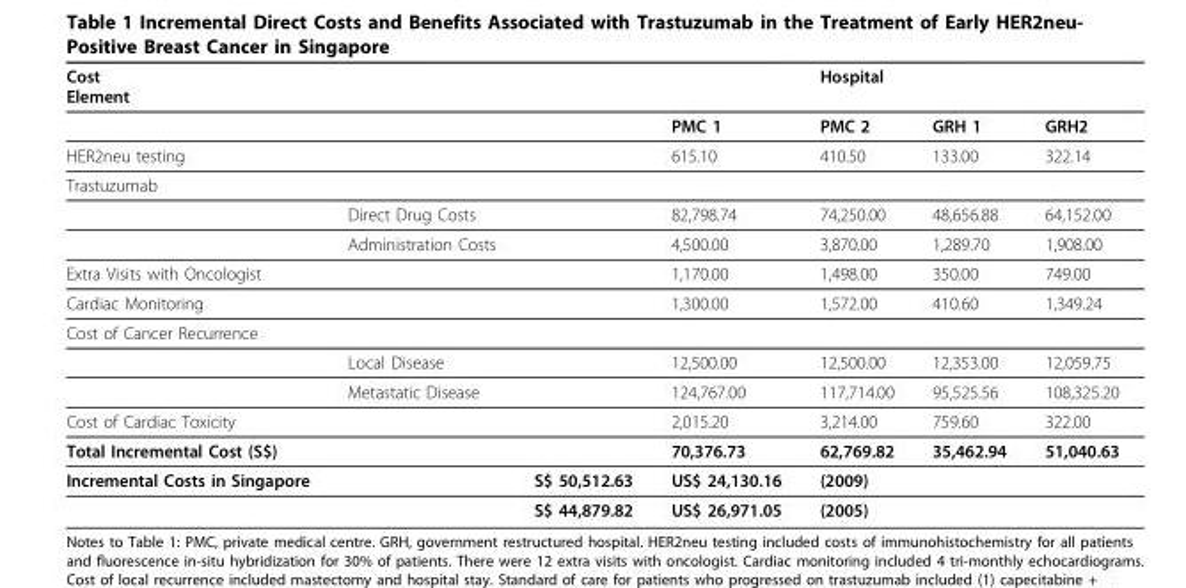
<table><thead><tr><td>Cost Element</td><td></td><td></td><td></td><td>Hospital</td><td></td><td></td></tr></thead><tbody><tr><td></td><td></td><td></td><td>PMC 1</td><td>PMC 2</td><td>GRH 1</td><td>GRH2</td></tr><tr><td>HER2neu testing</td><td></td><td></td><td>615.10</td><td>410.50</td><td>133.00</td><td>322.14</td></tr><tr><td colspan="7">Trastuzumab</td></tr><tr><td></td><td>Direct Drug Costs</td><td></td><td>82,798.74</td><td>74,250.00</td><td>48,656.88</td><td>64,152.00</td></tr><tr><td></td><td>Administration Costs</td><td></td><td>4,500.00</td><td>3,870.00</td><td>1,289.70</td><td>1,908.00</td></tr><tr><td>Extra Visits with Oncologist</td><td></td><td></td><td>1,170.00</td><td>1,498.00</td><td>350.00</td><td>749.00</td></tr><tr><td>Cardiac Monitoring</td><td></td><td></td><td>1,300.00</td><td>1,572.00</td><td>410.60</td><td>1,349.24</td></tr><tr><td colspan="7">Cost of Cancer Recurrence</td></tr><tr><td></td><td>Local Disease</td><td></td><td>12,500.00</td><td>12,500.00</td><td>12,353.00</td><td>12,059.75</td></tr><tr><td></td><td>Metastatic Disease</td><td></td><td>124,767.00</td><td>117,714.00</td><td>95,525.56</td><td>108,325.20</td></tr><tr><td>Cost of Cardiac Toxicity</td><td></td><td></td><td>2,015.20</td><td>3,214.00</td><td>759.60</td><td>322.00</td></tr><tr><td>Total Incremental Cost (S$)</td><td></td><td></td><td>70,376.73</td><td>62,769.82</td><td>35,462.94</td><td>51,040.63</td></tr><tr><td rowspan="2">Incremental Costs in Singapore</td><td></td><td>S$ 50,512.63</td><td>US$ 24,130.16</td><td>(2009)</td><td></td><td></td></tr><tr><td></td><td>S$ 44,879.82</td><td>US$ 26,971.05</td><td>(2005)</td><td></td><td></td></tr></tbody></table>